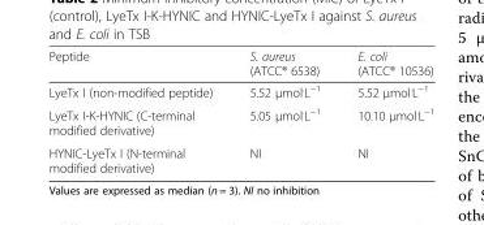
<table><thead><tr><td>Peptide</td><td>S. aureus (ATCC® 6538)</td><td>E. coli (ATCC® 10536)</td></tr></thead><tbody><tr><td>LyeTx I (non-modified peptide)</td><td>5.52 μmol<sup>.</sup>L<sup>−1</sup></td><td>5.52 μmol<sup>.</sup>L<sup>−1</sup></td></tr><tr><td>LyeTx I-K-HYNIC (C-terminal modified derivative)</td><td>5.05 μmol<sup>.</sup>L<sup>−1</sup></td><td>10.10 μmol<sup>.</sup>L<sup>−1</sup></td></tr><tr><td>HYNIC-LyeTx I (N-terminal modified derivative)</td><td>NI</td><td>NI</td></tr></tbody></table>